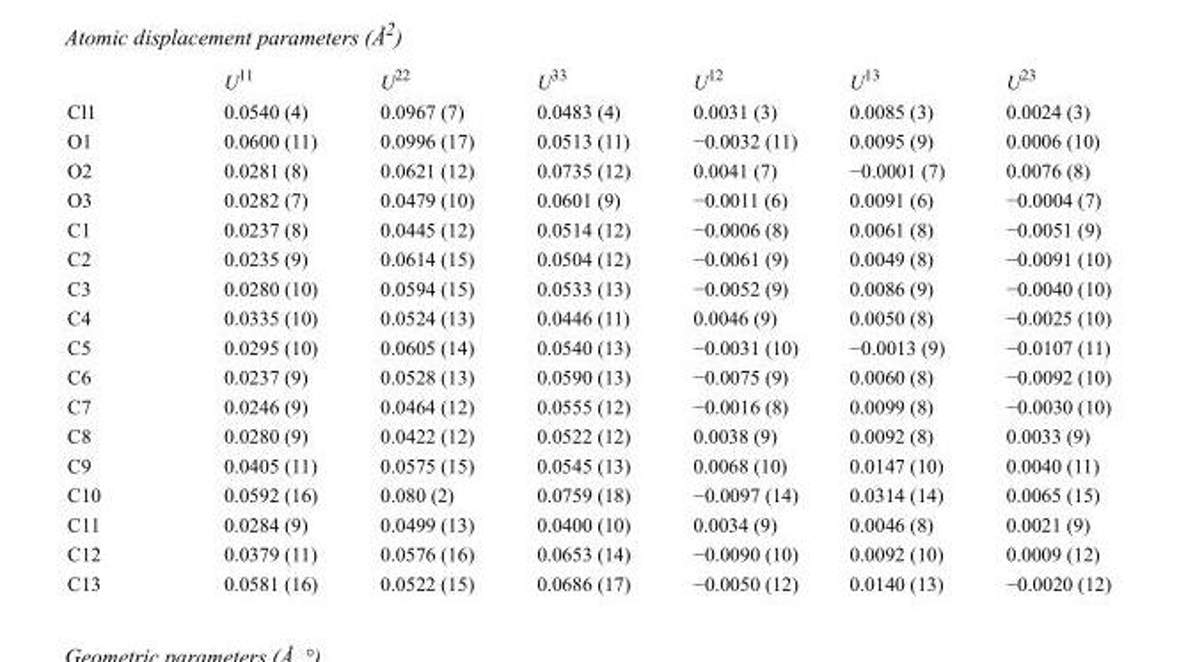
<table><thead><tr><td></td><td>U<sup>11</sup></td><td>U<sup>22</sup></td><td>U<sup>33</sup></td><td>U<sup>12</sup></td><td>U<sup>13</sup></td><td>U<sup>23</sup></td></tr></thead><tbody><tr><td>Cl1</td><td>0.0540 (4)</td><td>0.0967 (7)</td><td>0.0483 (4)</td><td>0.0031 (3)</td><td>0.0085 (3)</td><td>0.0024 (3)</td></tr><tr><td>O1</td><td>0.0600 (11)</td><td>0.0996 (17)</td><td>0.0513 (11)</td><td>−0.0032 (11)</td><td>0.0095 (9)</td><td>0.0006 (10)</td></tr><tr><td>O2</td><td>0.0281 (8)</td><td>0.0621 (12)</td><td>0.0735 (12)</td><td>0.0041 (7)</td><td>−0.0001 (7)</td><td>0.0076 (8)</td></tr><tr><td>O3</td><td>0.0282 (7)</td><td>0.0479 (10)</td><td>0.0601 (9)</td><td>−0.0011 (6)</td><td>0.0091 (6)</td><td>−0.0004 (7)</td></tr><tr><td>C1</td><td>0.0237 (8)</td><td>0.0445 (12)</td><td>0.0514 (12)</td><td>−0.0006 (8)</td><td>0.0061 (8)</td><td>−0.0051 (9)</td></tr><tr><td>C2</td><td>0.0235 (9)</td><td>0.0614 (15)</td><td>0.0504 (12)</td><td>−0.0061 (9)</td><td>0.0049 (8)</td><td>−0.0091 (10)</td></tr><tr><td>C3</td><td>0.0280 (10)</td><td>0.0594 (15)</td><td>0.0533 (13)</td><td>−0.0052 (9)</td><td>0.0086 (9)</td><td>−0.0040 (10)</td></tr><tr><td>C4</td><td>0.0335 (10)</td><td>0.0524 (13)</td><td>0.0446 (11)</td><td>0.0046 (9)</td><td>0.0050 (8)</td><td>−0.0025 (10)</td></tr><tr><td>C5</td><td>0.0295 (10)</td><td>0.0605 (14)</td><td>0.0540 (13)</td><td>−0.0031 (10)</td><td>−0.0013 (9)</td><td>−0.0107 (11)</td></tr><tr><td>C6</td><td>0.0237 (9)</td><td>0.0528 (13)</td><td>0.0590 (13)</td><td>−0.0075 (9)</td><td>0.0060 (8)</td><td>−0.0092 (10)</td></tr><tr><td>C7</td><td>0.0246 (9)</td><td>0.0464 (12)</td><td>0.0555 (12)</td><td>−0.0016 (8)</td><td>0.0099 (8)</td><td>−0.0030 (10)</td></tr><tr><td>C8</td><td>0.0280 (9)</td><td>0.0422 (12)</td><td>0.0522 (12)</td><td>0.0038 (9)</td><td>0.0092 (8)</td><td>0.0033 (9)</td></tr><tr><td>C9</td><td>0.0405 (11)</td><td>0.0575 (15)</td><td>0.0545 (13)</td><td>0.0068 (10)</td><td>0.0147 (10)</td><td>0.0040 (11)</td></tr><tr><td>C10</td><td>0.0592 (16)</td><td>0.080 (2)</td><td>0.0759 (18)</td><td>−0.0097 (14)</td><td>0.0314 (14)</td><td>0.0065 (15)</td></tr><tr><td>C11</td><td>0.0284 (9)</td><td>0.0499 (13)</td><td>0.0400 (10)</td><td>0.0034 (9)</td><td>0.0046 (8)</td><td>0.0021 (9)</td></tr><tr><td>C12</td><td>0.0379 (11)</td><td>0.0576 (16)</td><td>0.0653 (14)</td><td>−0.0090 (10)</td><td>0.0092 (10)</td><td>0.0009 (12)</td></tr><tr><td>C13</td><td>0.0581 (16)</td><td>0.0522 (15)</td><td>0.0686 (17)</td><td>−0.0050 (12)</td><td>0.0140 (13)</td><td>−0.0020 (12)</td></tr></tbody></table>